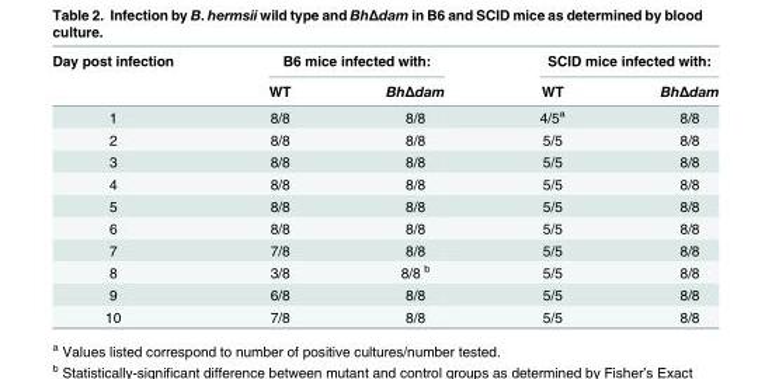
<table><thead><tr><td rowspan="2">Day post infection</td><td colspan="2">B6 mice infected with:</td><td colspan="2">SCID mice infected with:</td></tr><tr><td>WT</td><td>BhΔdam</td><td>WT</td><td>BhΔdam</td></tr></thead><tbody><tr><td>1</td><td>8/8</td><td>8/8</td><td>4/5<sup>a</sup></td><td>8/8</td></tr><tr><td>2</td><td>8/8</td><td>8/8</td><td>5/5</td><td>8/8</td></tr><tr><td>3</td><td>8/8</td><td>8/8</td><td>5/5</td><td>8/8</td></tr><tr><td>4</td><td>8/8</td><td>8/8</td><td>5/5</td><td>8/8</td></tr><tr><td>5</td><td>8/8</td><td>8/8</td><td>5/5</td><td>8/8</td></tr><tr><td>6</td><td>8/8</td><td>8/8</td><td>5/5</td><td>8/8</td></tr><tr><td>7</td><td>7/8</td><td>8/8</td><td>5/5</td><td>8/8</td></tr><tr><td>8</td><td>3/8</td><td>8/8 <sup>b</sup></td><td>5/5</td><td>8/8</td></tr><tr><td>9</td><td>6/8</td><td>8/8</td><td>5/5</td><td>8/8</td></tr><tr><td>10</td><td>7/8</td><td>8/8</td><td>5/5</td><td>8/8</td></tr></tbody></table>